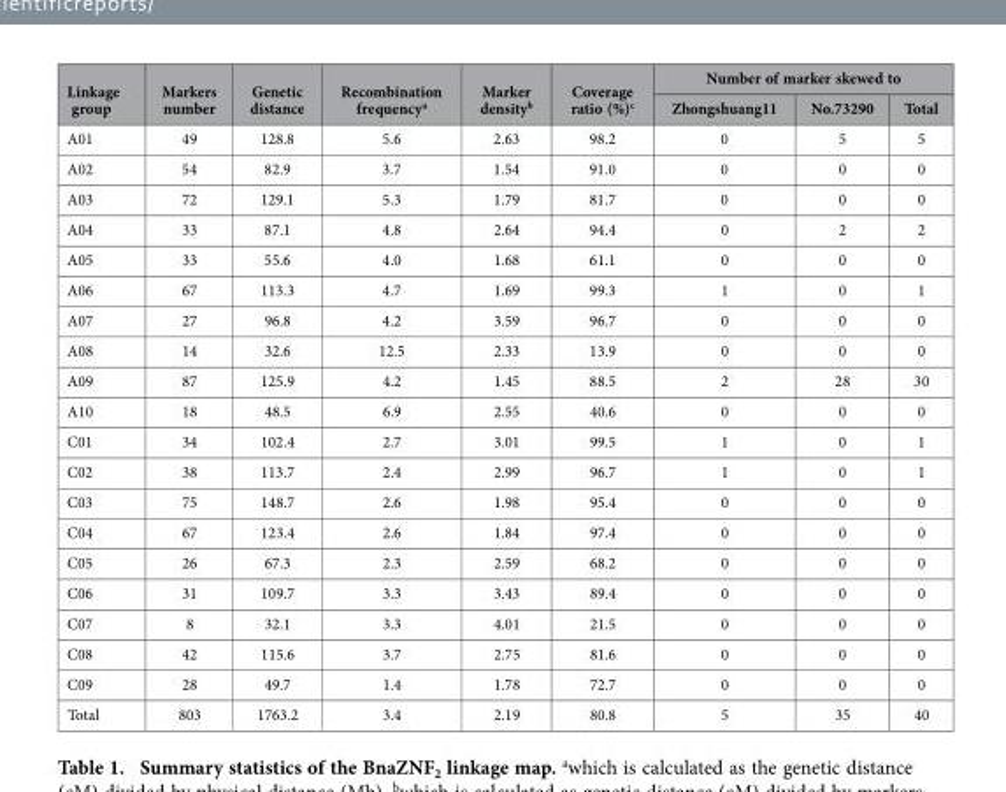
<table><thead><tr><td rowspan="2">Linkage group</td><td rowspan="2">Markers number</td><td rowspan="2">Genetic distance</td><td rowspan="2">Recombination frequency<sup>a</sup></td><td rowspan="2">Marker density<sup>b</sup></td><td rowspan="2">Coverage ratio (%)<sup>c</sup></td><td colspan="3">Number of marker skewed to</td></tr><tr><td>Zhongshuang11</td><td>No.73290</td><td>Total</td></tr></thead><tbody><tr><td>A01</td><td>49</td><td>128.8</td><td>5.6</td><td>2.63</td><td>98.2</td><td>0</td><td>5</td><td>5</td></tr><tr><td>A02</td><td>54</td><td>82.9</td><td>3.7</td><td>1.54</td><td>91.0</td><td>0</td><td>0</td><td>0</td></tr><tr><td>A03</td><td>72</td><td>129.1</td><td>5.3</td><td>1.79</td><td>81.7</td><td>0</td><td>0</td><td>0</td></tr><tr><td>A04</td><td>33</td><td>87.1</td><td>4.8</td><td>2.64</td><td>94.4</td><td>0</td><td>2</td><td>2</td></tr><tr><td>A05</td><td>33</td><td>55.6</td><td>4.0</td><td>1.68</td><td>61.1</td><td>0</td><td>0</td><td>0</td></tr><tr><td>A06</td><td>67</td><td>113.3</td><td>4.7</td><td>1.69</td><td>99.3</td><td>1</td><td>0</td><td>1</td></tr><tr><td>A07</td><td>27</td><td>96.8</td><td>4.2</td><td>3.59</td><td>96.7</td><td>0</td><td>0</td><td>0</td></tr><tr><td>A08</td><td>14</td><td>32.6</td><td>12.5</td><td>2.33</td><td>13.9</td><td>0</td><td>0</td><td>0</td></tr><tr><td>A09</td><td>87</td><td>125.9</td><td>4.2</td><td>1.45</td><td>88.5</td><td>2</td><td>28</td><td>30</td></tr><tr><td>A10</td><td>18</td><td>48.5</td><td>6.9</td><td>2.55</td><td>40.6</td><td>0</td><td>0</td><td>0</td></tr><tr><td>C01</td><td>34</td><td>102.4</td><td>2.7</td><td>3.01</td><td>99.5</td><td>1</td><td>0</td><td>1</td></tr><tr><td>C02</td><td>38</td><td>113.7</td><td>2.4</td><td>2.99</td><td>96.7</td><td>1</td><td>0</td><td>1</td></tr><tr><td>C03</td><td>75</td><td>148.7</td><td>2.6</td><td>1.98</td><td>95.4</td><td>0</td><td>0</td><td>0</td></tr><tr><td>C04</td><td>67</td><td>123.4</td><td>2.6</td><td>1.84</td><td>97.4</td><td>0</td><td>0</td><td>0</td></tr><tr><td>C05</td><td>26</td><td>67.3</td><td>2.3</td><td>2.59</td><td>68.2</td><td>0</td><td>0</td><td>0</td></tr><tr><td>C06</td><td>31</td><td>109.7</td><td>3.3</td><td>3.43</td><td>89.4</td><td>0</td><td>0</td><td>0</td></tr><tr><td>C07</td><td>8</td><td>32.1</td><td>3.3</td><td>4.01</td><td>21.5</td><td>0</td><td>0</td><td>0</td></tr><tr><td>C08</td><td>42</td><td>115.6</td><td>3.7</td><td>2.75</td><td>81.6</td><td>0</td><td>0</td><td>0</td></tr><tr><td>C09</td><td>28</td><td>49.7</td><td>1.4</td><td>1.78</td><td>72.7</td><td>0</td><td>0</td><td>0</td></tr><tr><td>Total</td><td>803</td><td>1763.2</td><td>3.4</td><td>2.19</td><td>80.8</td><td>5</td><td>35</td><td>40</td></tr></tbody></table>